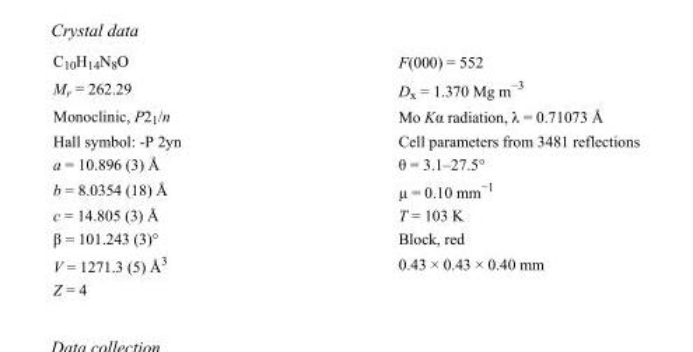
<table><tbody><tr><td>C<sub>10</sub>H<sub>14</sub>N<sub>8</sub>O</td><td>F(000) = 552</td></tr><tr><td>M<sub>r</sub> = 262.29</td><td>D<sub>x</sub> = 1.370 Mg m<sup>−3</sup></td></tr><tr><td>Monoclinic, P2<sub>1</sub>/n</td><td>Mo Kα radiation, λ = 0.71073 Å</td></tr><tr><td>Hall symbol: -P 2yn</td><td>Cell parameters from 3481 reflections</td></tr><tr><td>a = 10.896 (3) Å</td><td>θ = 3.1–27.5°</td></tr><tr><td>b = 8.0354 (18) Å</td><td>µ = 0.10 mm<sup>−1</sup></td></tr><tr><td>c = 14.805 (3) Å</td><td>T = 103 K</td></tr><tr><td>β = 101.243 (3)°</td><td>Block, red</td></tr><tr><td>V = 1271.3 (5) Å<sup>3</sup></td><td>0.43 × 0.43 × 0.40 mm</td></tr><tr><td>Z = 4</td><td></td></tr></tbody></table>